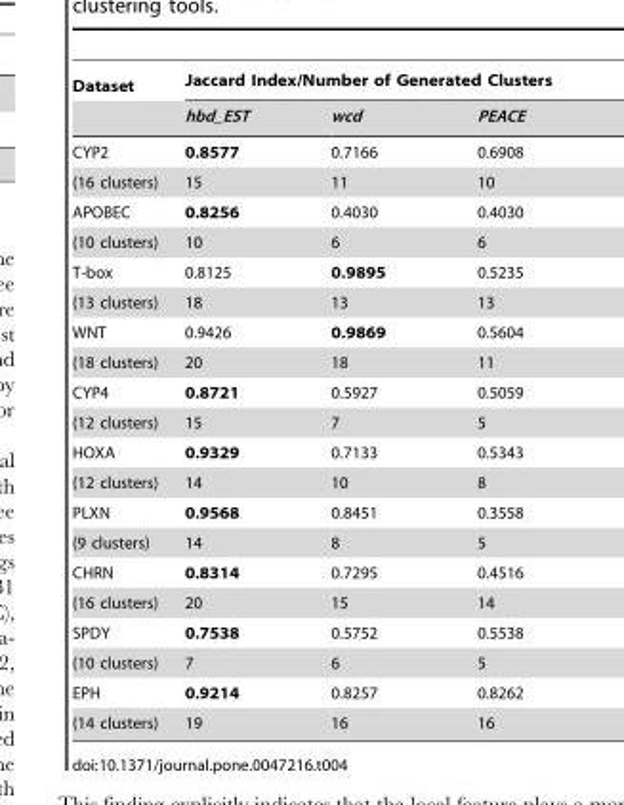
<table><thead><tr><td rowspan="2">Dataset</td><td colspan="3">Jaccard Index/Number of Generated Clusters</td></tr><tr><td>hbd_EST</td><td>wcd</td><td>PEACE</td></tr></thead><tbody><tr><td>CYP2</td><td>0.8577</td><td>0.7166</td><td>0.6908</td></tr><tr><td>(16 clusters)</td><td>15</td><td>11</td><td>10</td></tr><tr><td>APOBEC</td><td>0.8256</td><td>0.4030</td><td>0.4030</td></tr><tr><td>(10 clusters)</td><td>10</td><td>6</td><td>6</td></tr><tr><td>T-box</td><td>0.8125</td><td>0.9895</td><td>0.5235</td></tr><tr><td>(13 clusters)</td><td>18</td><td>13</td><td>13</td></tr><tr><td>WNT</td><td>0.9426</td><td>0.9869</td><td>0.5604</td></tr><tr><td>(18 clusters)</td><td>20</td><td>18</td><td>11</td></tr><tr><td>CYP4</td><td>0.8721</td><td>0.5927</td><td>0.5059</td></tr><tr><td>(12 clusters)</td><td>15</td><td>7</td><td>5</td></tr><tr><td>HOXA</td><td>0.9329</td><td>0.7133</td><td>0.5343</td></tr><tr><td>(12 clusters)</td><td>14</td><td>10</td><td>8</td></tr><tr><td>PLXN</td><td>0.9568</td><td>0.8451</td><td>0.3558</td></tr><tr><td>(9 clusters)</td><td>14</td><td>8</td><td>5</td></tr><tr><td>CHRN</td><td>0.8314</td><td>0.7295</td><td>0.4516</td></tr><tr><td>(16 clusters)</td><td>20</td><td>15</td><td>14</td></tr><tr><td>SPDY</td><td>0.7538</td><td>0.5752</td><td>0.5538</td></tr><tr><td>(10 clusters)</td><td>7</td><td>6</td><td>5</td></tr><tr><td>EPH</td><td>0.9214</td><td>0.8257</td><td>0.8262</td></tr><tr><td>(14 clusters)</td><td>19</td><td>16</td><td>16</td></tr></tbody></table>